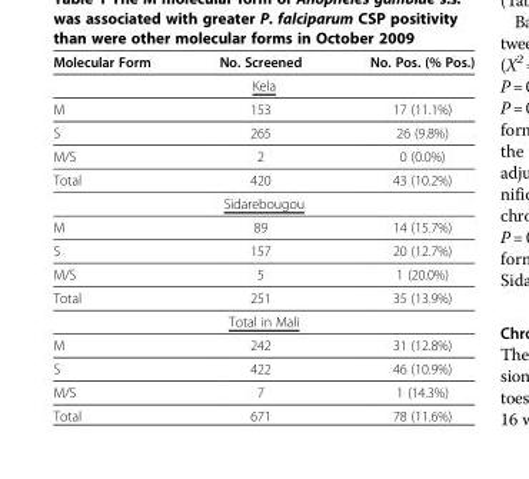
<table><thead><tr><td>Molecular Form</td><td>No. Screened</td><td>No. Pos. (% Pos.)</td></tr></thead><tbody><tr><td colspan="3">Kela</td></tr><tr><td>M</td><td>153</td><td>17 (11.1%)</td></tr><tr><td>S</td><td>265</td><td>26 (9.8%)</td></tr><tr><td>M/S</td><td>2</td><td>0 (0.0%)</td></tr><tr><td>Total</td><td>420</td><td>43 (10.2%)</td></tr><tr><td colspan="3">Sidarebougou</td></tr><tr><td>M</td><td>89</td><td>14 (15.7%)</td></tr><tr><td>S</td><td>157</td><td>20 (12.7%)</td></tr><tr><td>M/S</td><td>5</td><td>1 (20.0%)</td></tr><tr><td>Total</td><td>251</td><td>35 (13.9%)</td></tr><tr><td colspan="3">Total in Mali</td></tr><tr><td>M</td><td>242</td><td>31 (12.8%)</td></tr><tr><td>S</td><td>422</td><td>46 (10.9%)</td></tr><tr><td>M/S</td><td>7</td><td>1 (14.3%)</td></tr><tr><td>Total</td><td>671</td><td>78 (11.6%)</td></tr></tbody></table>